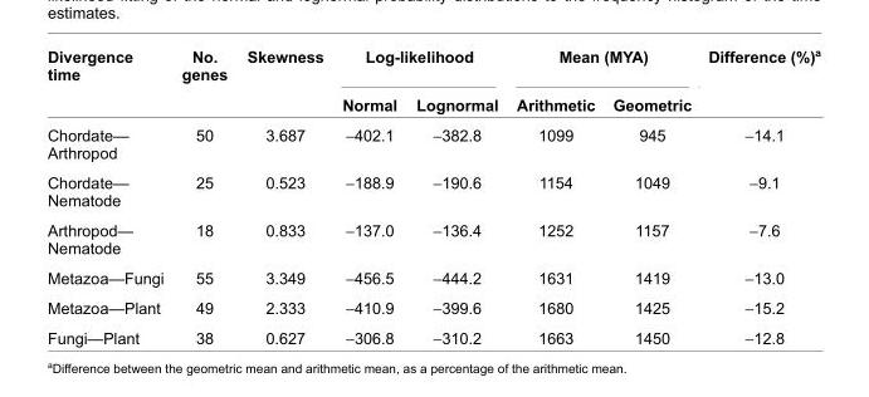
<table><thead><tr><td rowspan="2">Divergence time</td><td rowspan="2">No. genes</td><td rowspan="2">Skewness</td><td colspan="2">Log-likelihood</td><td colspan="2">Mean (MYA)</td><td rowspan="2">Difference (%)<sup>a</sup></td></tr><tr><td>Normal</td><td>Lognormal</td><td>Arithmetic</td><td>Geometric</td></tr></thead><tbody><tr><td>Chordate— Arthropod</td><td>50</td><td>3.687</td><td>−402.1</td><td>−382.8</td><td>1099</td><td>945</td><td>−14.1</td></tr><tr><td>Chordate— Nematode</td><td>25</td><td>0.523</td><td>−188.9</td><td>−190.6</td><td>1154</td><td>1049</td><td>−9.1</td></tr><tr><td>Arthropod— Nematode</td><td>18</td><td>0.833</td><td>−137.0</td><td>−136.4</td><td>1252</td><td>1157</td><td>−7.6</td></tr><tr><td>Metazoa—Fungi</td><td>55</td><td>3.349</td><td>−456.5</td><td>−444.2</td><td>1631</td><td>1419</td><td>−13.0</td></tr><tr><td>Metazoa—Plant</td><td>49</td><td>2.333</td><td>−410.9</td><td>−399.6</td><td>1680</td><td>1425</td><td>−15.2</td></tr><tr><td>Fungi—Plant</td><td>38</td><td>0.627</td><td>−306.8</td><td>−310.2</td><td>1663</td><td>1450</td><td>−12.8</td></tr></tbody></table>